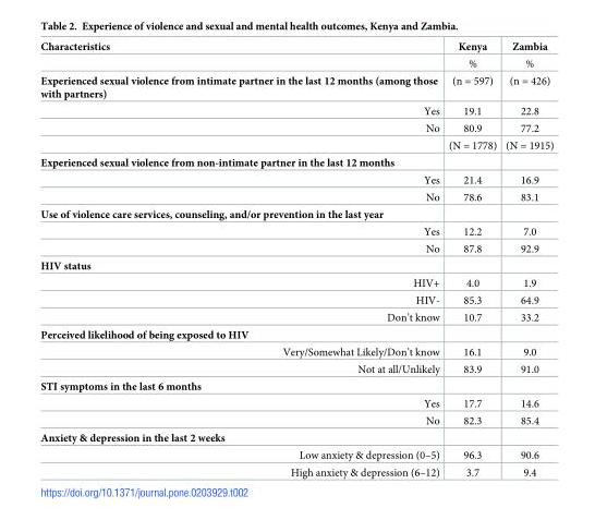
<table><thead><tr><td>Characteristics</td><td>Kenya</td><td>Zambia</td></tr></thead><tbody><tr><td></td><td>%</td><td>%</td></tr><tr><td>Experienced sexual violence from intimate partner in the last 12 months (among those with partners)</td><td>(n = 597)</td><td>(n = 426)</td></tr><tr><td>Yes</td><td>19.1</td><td>22.8</td></tr><tr><td rowspan="2">No</td><td>80.9</td><td>77.2</td></tr><tr><td>(N = 1778)</td><td>(N = 1915)</td></tr><tr><td colspan="3">Experienced sexual violence from non-intimate partner in the last 12 months</td></tr><tr><td>Yes</td><td>21.4</td><td>16.9</td></tr><tr><td>No</td><td>78.6</td><td>83.1</td></tr><tr><td colspan="3">Use of violence care services, counseling, and/or prevention in the last year</td></tr><tr><td>Yes</td><td>12.2</td><td>7.0</td></tr><tr><td>No</td><td>87.8</td><td>92.9</td></tr><tr><td colspan="3">HIV status</td></tr><tr><td>HIV+</td><td>4.0</td><td>1.9</td></tr><tr><td>HIV-</td><td>85.3</td><td>64.9</td></tr><tr><td>Don’t know</td><td>10.7</td><td>33.2</td></tr><tr><td colspan="3">Perceived likelihood of being exposed to HIV</td></tr><tr><td>Very/Somewhat Likely/Don’t know</td><td>16.1</td><td>9.0</td></tr><tr><td>Not at all/Unlikely</td><td>83.9</td><td>91.0</td></tr><tr><td colspan="3">STI symptoms in the last 6 months</td></tr><tr><td>Yes</td><td>17.7</td><td>14.6</td></tr><tr><td>No</td><td>82.3</td><td>85.4</td></tr><tr><td colspan="3">Anxiety &amp; depression in the last 2 weeks</td></tr><tr><td>Low anxiety &amp; depression (0–5)</td><td>96.3</td><td>90.6</td></tr><tr><td>High anxiety &amp; depression (6–12)</td><td>3.7</td><td>9.4</td></tr></tbody></table>